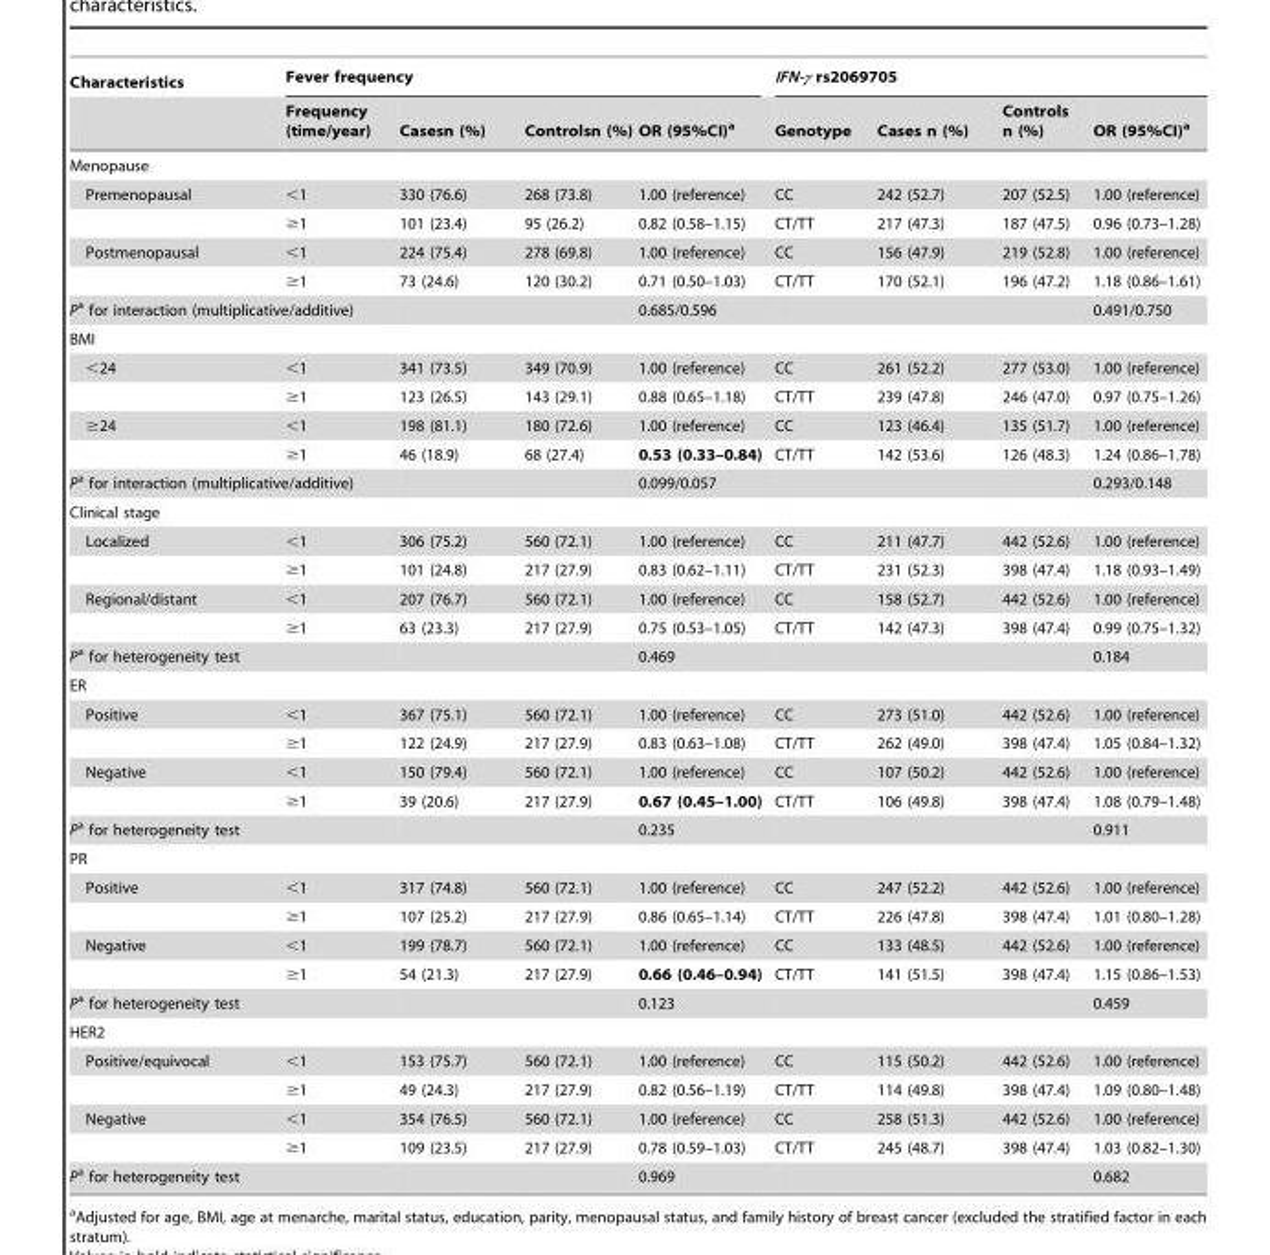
<table><thead><tr><td rowspan="2">Characteristics</td><td colspan="4">Fever frequency</td><td colspan="4">IFN-γ rs2069705</td></tr><tr><td>Frequency (time/year)</td><td>Casesn (%)</td><td>Controlsn (%)</td><td>OR (95%CI)<sup>a</sup></td><td>Genotype</td><td>Cases n (%)</td><td>Controls n (%)</td><td>OR (95%CI)<sup>a</sup></td></tr></thead><tbody><tr><td colspan="9">Menopause</td></tr><tr><td rowspan="2">Premenopausal</td><td>&lt;1</td><td>330 (76.6)</td><td>268 (73.8)</td><td>1.00 (reference)</td><td>CC</td><td>242 (52.7)</td><td>207 (52.5)</td><td>1.00 (reference)</td></tr><tr><td>≥1</td><td>101 (23.4)</td><td>95 (26.2)</td><td>0.82 (0.58–1.15)</td><td>CT/TT</td><td>217 (47.3)</td><td>187 (47.5)</td><td>0.96 (0.73–1.28)</td></tr><tr><td rowspan="2">Postmenopausal</td><td>&lt;1</td><td>224 (75.4)</td><td>278 (69.8)</td><td>1.00 (reference)</td><td>CC</td><td>156 (47.9)</td><td>219 (52.8)</td><td>1.00 (reference)</td></tr><tr><td>≥1</td><td>73 (24.6)</td><td>120 (30.2)</td><td>0.71 (0.50–1.03)</td><td>CT/TT</td><td>170 (52.1)</td><td>196 (47.2)</td><td>1.18 (0.86–1.61)</td></tr><tr><td colspan="2">Pa for interaction (multiplicative/additive)</td><td></td><td></td><td>0.685/0.596</td><td></td><td></td><td></td><td>0.491/0.750</td></tr><tr><td colspan="9">BMI</td></tr><tr><td rowspan="2">&lt;24</td><td>&lt;1</td><td>341 (73.5)</td><td>349 (70.9)</td><td>1.00 (reference)</td><td>CC</td><td>261 (52.2)</td><td>277 (53.0)</td><td>1.00 (reference)</td></tr><tr><td>≥1</td><td>123 (26.5)</td><td>143 (29.1)</td><td>0.88 (0.65–1.18)</td><td>CT/TT</td><td>239 (47.8)</td><td>246 (47.0)</td><td>0.97 (0.75–1.26)</td></tr><tr><td rowspan="2">≥24</td><td>&lt;1</td><td>198 (81.1)</td><td>180 (72.6)</td><td>1.00 (reference)</td><td>CC</td><td>123 (46.4)</td><td>135 (51.7)</td><td>1.00 (reference)</td></tr><tr><td>≥1</td><td>46 (18.9)</td><td>68 (27.4)</td><td>0.53 (0.33–0.84)</td><td>CT/TT</td><td>142 (53.6)</td><td>126 (48.3)</td><td>1.24 (0.86–1.78)</td></tr><tr><td colspan="2">Pa for interaction (multiplicative/additive)</td><td></td><td></td><td>0.099/0.057</td><td></td><td></td><td></td><td>0.293/0.148</td></tr><tr><td colspan="9">Clinical stage</td></tr><tr><td rowspan="2">Localized</td><td>&lt;1</td><td>306 (75.2)</td><td>560 (72.1)</td><td>1.00 (reference)</td><td>CC</td><td>211 (47.7)</td><td>442 (52.6)</td><td>1.00 (reference)</td></tr><tr><td>≥1</td><td>101 (24.8)</td><td>217 (27.9)</td><td>0.83 (0.62–1.11)</td><td>CT/TT</td><td>231 (52.3)</td><td>398 (47.4)</td><td>1.18 (0.93–1.49)</td></tr><tr><td rowspan="2">Regional/distant</td><td>&lt;1</td><td>207 (76.7)</td><td>560 (72.1)</td><td>1.00 (reference)</td><td>CC</td><td>158 (52.7)</td><td>442 (52.6)</td><td>1.00 (reference)</td></tr><tr><td>≥1</td><td>63 (23.3)</td><td>217 (27.9)</td><td>0.75 (0.53–1.05)</td><td>CT/TT</td><td>142 (47.3)</td><td>398 (47.4)</td><td>0.99 (0.75–1.32)</td></tr><tr><td colspan="2">Pa for heterogeneity test</td><td></td><td></td><td>0.469</td><td></td><td></td><td></td><td>0.184</td></tr><tr><td colspan="9">ER</td></tr><tr><td rowspan="2">Positive</td><td>&lt;1</td><td>367 (75.1)</td><td>560 (72.1)</td><td>1.00 (reference)</td><td>CC</td><td>273 (51.0)</td><td>442 (52.6)</td><td>1.00 (reference)</td></tr><tr><td>≥1</td><td>122 (24.9)</td><td>217 (27.9)</td><td>0.83 (0.63–1.08)</td><td>CT/TT</td><td>262 (49.0)</td><td>398 (47.4)</td><td>1.05 (0.84–1.32)</td></tr><tr><td rowspan="2">Negative</td><td>&lt;1</td><td>150 (79.4)</td><td>560 (72.1)</td><td>1.00 (reference)</td><td>CC</td><td>107 (50.2)</td><td>442 (52.6)</td><td>1.00 (reference)</td></tr><tr><td>≥1</td><td>39 (20.6)</td><td>217 (27.9)</td><td>0.67 (0.45–1.00)</td><td>CT/TT</td><td>106 (49.8)</td><td>398 (47.4)</td><td>1.08 (0.79–1.48)</td></tr><tr><td colspan="2">Pa for heterogeneity test</td><td></td><td></td><td>0.235</td><td></td><td></td><td></td><td>0.911</td></tr><tr><td colspan="9">PR</td></tr><tr><td rowspan="2">Positive</td><td>&lt;1</td><td>317 (74.8)</td><td>560 (72.1)</td><td>1.00 (reference)</td><td>CC</td><td>247 (52.2)</td><td>442 (52.6)</td><td>1.00 (reference)</td></tr><tr><td>≥1</td><td>107 (25.2)</td><td>217 (27.9)</td><td>0.86 (0.65–1.14)</td><td>CT/TT</td><td>226 (47.8)</td><td>398 (47.4)</td><td>1.01 (0.80–1.28)</td></tr><tr><td rowspan="2">Negative</td><td>&lt;1</td><td>199 (78.7)</td><td>560 (72.1)</td><td>1.00 (reference)</td><td>CC</td><td>133 (48.5)</td><td>442 (52.6)</td><td>1.00 (reference)</td></tr><tr><td>≥1</td><td>54 (21.3)</td><td>217 (27.9)</td><td>0.66 (0.46–0.94)</td><td>CT/TT</td><td>141 (51.5)</td><td>398 (47.4)</td><td>1.15 (0.86–1.53)</td></tr><tr><td colspan="2">Pa for heterogeneity test</td><td></td><td></td><td>0.123</td><td></td><td></td><td></td><td>0.459</td></tr><tr><td colspan="9">HER2</td></tr><tr><td rowspan="2">Positive/equivocal</td><td>&lt;1</td><td>153 (75.7)</td><td>560 (72.1)</td><td>1.00 (reference)</td><td>CC</td><td>115 (50.2)</td><td>442 (52.6)</td><td>1.00 (reference)</td></tr><tr><td>≥1</td><td>49 (24.3)</td><td>217 (27.9)</td><td>0.82 (0.56–1.19)</td><td>CT/TT</td><td>114 (49.8)</td><td>398 (47.4)</td><td>1.09 (0.80–1.48)</td></tr><tr><td rowspan="2">Negative</td><td>&lt;1</td><td>354 (76.5)</td><td>560 (72.1)</td><td>1.00 (reference)</td><td>CC</td><td>258 (51.3)</td><td>442 (52.6)</td><td>1.00 (reference)</td></tr><tr><td>≥1</td><td>109 (23.5)</td><td>217 (27.9)</td><td>0.78 (0.59–1.03)</td><td>CT/TT</td><td>245 (48.7)</td><td>398 (47.4)</td><td>1.03 (0.82–1.30)</td></tr><tr><td colspan="2">Pa for heterogeneity test</td><td></td><td></td><td>0.969</td><td></td><td></td><td></td><td>0.682</td></tr></tbody></table>